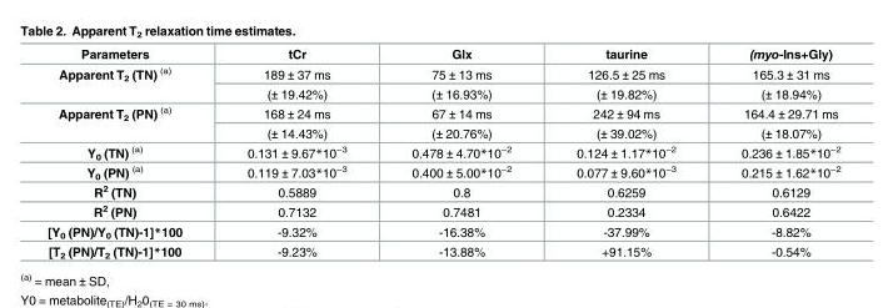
<table><thead><tr><td>Parameters</td><td>tCr</td><td>Glx</td><td>taurine</td><td>(myo-Ins+Gly)</td></tr></thead><tbody><tr><td rowspan="2">Apparent T<sub>2</sub> (TN) <sup>(a)</sup></td><td>189 ± 37 ms</td><td>75 ± 13 ms</td><td>126.5 ± 25 ms</td><td>165.3 ± 31 ms</td></tr><tr><td>(± 19.42%)</td><td>(± 16.93%)</td><td>(± 19.82%)</td><td>(± 18.94%)</td></tr><tr><td rowspan="2">Apparent T<sub>2</sub> (PN) <sup>(a)</sup></td><td>168 ± 24 ms</td><td>67 ± 14 ms</td><td>242 ± 94 ms</td><td>164.4 ± 29.71 ms</td></tr><tr><td>(± 14.43%)</td><td>(± 20.76%)</td><td>(± 39.02%)</td><td>(± 18.07%)</td></tr><tr><td>Y<sub>0</sub> (TN) <sup>(a)</sup></td><td>0.131 ± 9.67*10<sup>−3</sup></td><td>0.478 ± 4.70*10<sup>−2</sup></td><td>0.124 ± 1.17*10<sup>−2</sup></td><td>0.236 ± 1.85*10<sup>−2</sup></td></tr><tr><td>Y<sub>0</sub> (PN) <sup>(a)</sup></td><td>0.119 ± 7.03*10<sup>−3</sup></td><td>0.400 ± 5.00*10<sup>−2</sup></td><td>0.077 ± 9.60*10<sup>−3</sup></td><td>0.215 ± 1.62*10<sup>−2</sup></td></tr><tr><td>R<sup>2</sup> (TN)</td><td>0.5889</td><td>0.8</td><td>0.6259</td><td>0.6129</td></tr><tr><td>R<sup>2</sup> (PN)</td><td>0.7132</td><td>0.7481</td><td>0.2334</td><td>0.6422</td></tr><tr><td>[Y<sub>0</sub> (PN)/Y<sub>0</sub> (TN)-1]*100</td><td>-9.32%</td><td>-16.38%</td><td>-37.99%</td><td>-8.82%</td></tr><tr><td>[T<sub>2</sub> (PN)/T<sub>2</sub> (TN)-1]*100</td><td>-9.23%</td><td>-13.88%</td><td>+91.15%</td><td>-0.54%</td></tr></tbody></table>